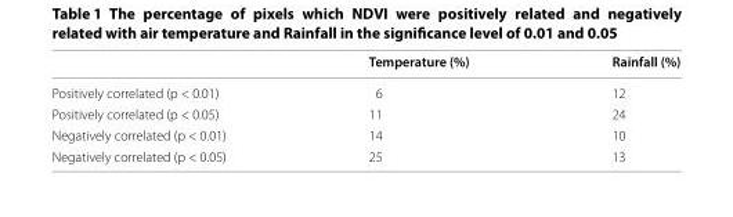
<table><thead><tr><td></td><td>Temperature (%)</td><td>Rainfall (%)</td></tr></thead><tbody><tr><td>Positively correlated (p &lt; 0.01)</td><td>6</td><td>12</td></tr><tr><td>Positively correlated (p &lt; 0.05)</td><td>11</td><td>24</td></tr><tr><td>Negatively correlated (p &lt; 0.01)</td><td>14</td><td>10</td></tr><tr><td>Negatively correlated (p &lt; 0.05)</td><td>25</td><td>13</td></tr></tbody></table>